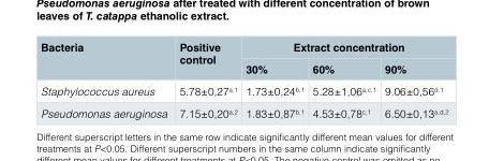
<table><thead><tr><td rowspan="2">Bacteria</td><td rowspan="2">Positive control</td><td colspan="3">Extract concentration</td></tr><tr><td>30%</td><td>60%</td><td>90%</td></tr></thead><tbody><tr><td>Staphylococcus aureus</td><td>5.78±0,27<sup>a,1</sup></td><td>1.73±0,24<sup>b,1</sup></td><td>5.28±1,06<sup>a,c,1</sup></td><td>9.06±0,56<sup>d,1</sup></td></tr><tr><td>Pseudomonas aeruginosa</td><td>7.15±0,20<sup>a,2</sup></td><td>1.83±0,87<sup>b,1</sup></td><td>4.53±0,78<sup>c,1</sup></td><td>6.50±0,13<sup>a,d,2</sup></td></tr></tbody></table>